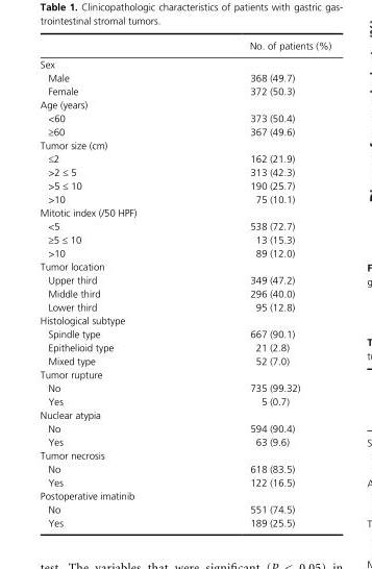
<table><thead><tr><td></td><td>No. of patients (%)</td></tr></thead><tbody><tr><td colspan="2">Sex</td></tr><tr><td>Male</td><td>368 (49.7)</td></tr><tr><td>Female</td><td>372 (50.3)</td></tr><tr><td colspan="2">Age (years)</td></tr><tr><td>&lt;60</td><td>373 (50.4)</td></tr><tr><td>≥60</td><td>367 (49.6)</td></tr><tr><td colspan="2">Tumor size (cm)</td></tr><tr><td>≤2</td><td>162 (21.9)</td></tr><tr><td>&gt;2 ≤ 5</td><td>313 (42.3)</td></tr><tr><td>&gt;5 ≤ 10</td><td>190 (25.7)</td></tr><tr><td>&gt;10</td><td>75 (10.1)</td></tr><tr><td colspan="2">Mitotic index (/50 HPF)</td></tr><tr><td>&lt;5</td><td>538 (72.7)</td></tr><tr><td>≥5 ≤ 10</td><td>13 (15.3)</td></tr><tr><td>&gt;10</td><td>89 (12.0)</td></tr><tr><td colspan="2">Tumor location</td></tr><tr><td>Upper third</td><td>349 (47.2)</td></tr><tr><td>Middle third</td><td>296 (40.0)</td></tr><tr><td>Lower third</td><td>95 (12.8)</td></tr><tr><td colspan="2">Histological subtype</td></tr><tr><td>Spindle type</td><td>667 (90.1)</td></tr><tr><td>Epithelioid type</td><td>21 (2.8)</td></tr><tr><td>Mixed type</td><td>52 (7.0)</td></tr><tr><td colspan="2">Tumor rupture</td></tr><tr><td>No</td><td>735 (99.32)</td></tr><tr><td>Yes</td><td>5 (0.7)</td></tr><tr><td colspan="2">Nuclear atypia</td></tr><tr><td>No</td><td>594 (90.4)</td></tr><tr><td>Yes</td><td>63 (9.6)</td></tr><tr><td colspan="2">Tumor necrosis</td></tr><tr><td>No</td><td>618 (83.5)</td></tr><tr><td>Yes</td><td>122 (16.5)</td></tr><tr><td colspan="2">Postoperative imatinib</td></tr><tr><td>No</td><td>551 (74.5)</td></tr><tr><td>Yes</td><td>189 (25.5)</td></tr></tbody></table>